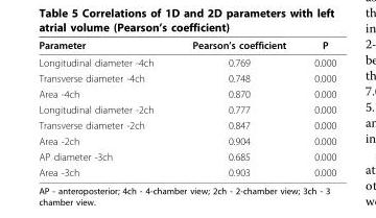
<table><thead><tr><td>Parameter</td><td>Pearson’s coefficient</td><td>P</td></tr></thead><tbody><tr><td>Longitudinal diameter -4ch</td><td>0.769</td><td>0.000</td></tr><tr><td>Transverse diameter -4ch</td><td>0.748</td><td>0.000</td></tr><tr><td>Area -4ch</td><td>0.870</td><td>0.000</td></tr><tr><td>Longitudinal diameter -2ch</td><td>0.777</td><td>0.000</td></tr><tr><td>Transverse diameter -2ch</td><td>0.847</td><td>0.000</td></tr><tr><td>Area -2ch</td><td>0.904</td><td>0.000</td></tr><tr><td>AP diameter -3ch</td><td>0.685</td><td>0.000</td></tr><tr><td>Area -3ch</td><td>0.903</td><td>0.000</td></tr></tbody></table>